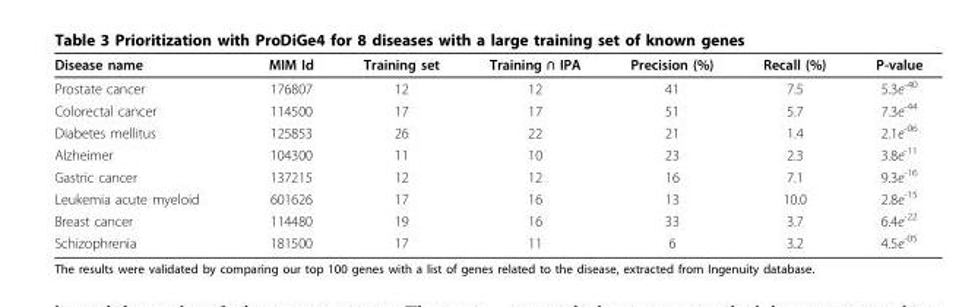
<table><thead><tr><td>Disease name</td><td>MIM Id</td><td>Training set</td><td>Training ∩ IPA</td><td>Precision (%)</td><td>Recall (%)</td><td>P-value</td></tr></thead><tbody><tr><td>Prostate cancer</td><td>176807</td><td>12</td><td>12</td><td>41</td><td>7.5</td><td>5.3e<sup>-40</sup></td></tr><tr><td>Colorectal cancer</td><td>114500</td><td>17</td><td>17</td><td>51</td><td>5.7</td><td>7.3e<sup>-44</sup></td></tr><tr><td>Diabetes mellitus</td><td>125853</td><td>26</td><td>22</td><td>21</td><td>1.4</td><td>2.1e<sup>-06</sup></td></tr><tr><td>Alzheimer</td><td>104300</td><td>11</td><td>10</td><td>23</td><td>2.3</td><td>3.8e<sup>-11</sup></td></tr><tr><td>Gastric cancer</td><td>137215</td><td>12</td><td>12</td><td>16</td><td>7.1</td><td>9.3e<sup>-16</sup></td></tr><tr><td>Leukemia acute myeloid</td><td>601626</td><td>17</td><td>16</td><td>13</td><td>10.0</td><td>2.8e<sup>-15</sup></td></tr><tr><td>Breast cancer</td><td>114480</td><td>19</td><td>16</td><td>33</td><td>3.7</td><td>6.4e<sup>-22</sup></td></tr><tr><td>Schizophrenia</td><td>181500</td><td>17</td><td>11</td><td>6</td><td>3.2</td><td>4.5e<sup>-05</sup></td></tr></tbody></table>